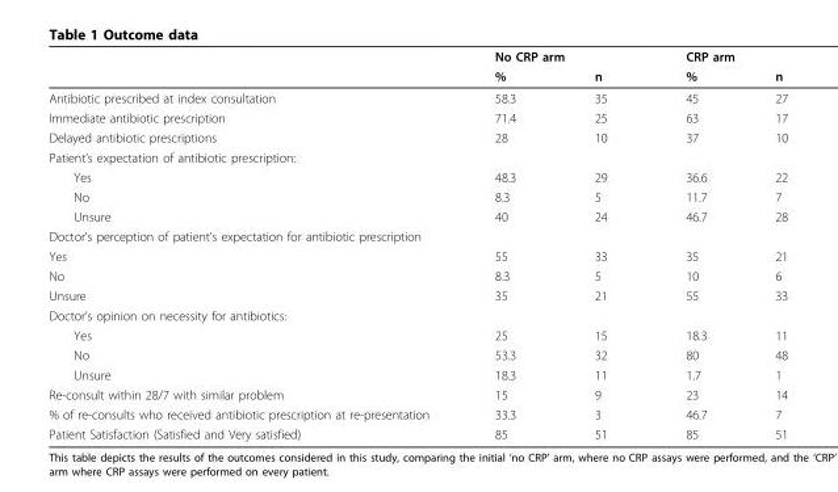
<table><thead><tr><td rowspan="2"></td><td colspan="2">No CRP arm</td><td colspan="2">CRP arm</td></tr><tr><td>%</td><td>n</td><td>%</td><td>n</td></tr></thead><tbody><tr><td>Antibiotic prescribed at index consultation</td><td>58.3</td><td>35</td><td>45</td><td>27</td></tr><tr><td>Immediate antibiotic prescription</td><td>71.4</td><td>25</td><td>63</td><td>17</td></tr><tr><td>Delayed antibiotic prescriptions</td><td>28</td><td>10</td><td>37</td><td>10</td></tr><tr><td colspan="5">Patient’s expectation of antibiotic prescription:</td></tr><tr><td>Yes</td><td>48.3</td><td>29</td><td>36.6</td><td>22</td></tr><tr><td>No</td><td>8.3</td><td>5</td><td>11.7</td><td>7</td></tr><tr><td>Unsure</td><td>40</td><td>24</td><td>46.7</td><td>28</td></tr><tr><td colspan="5">Doctor’s perception of patient’s expectation for antibiotic prescription</td></tr><tr><td>Yes</td><td>55</td><td>33</td><td>35</td><td>21</td></tr><tr><td>No</td><td>8.3</td><td>5</td><td>10</td><td>6</td></tr><tr><td>Unsure</td><td>35</td><td>21</td><td>55</td><td>33</td></tr><tr><td colspan="5">Doctor’s opinion on necessity for antibiotics:</td></tr><tr><td>Yes</td><td>25</td><td>15</td><td>18.3</td><td>11</td></tr><tr><td>No</td><td>53.3</td><td>32</td><td>80</td><td>48</td></tr><tr><td>Unsure</td><td>18.3</td><td>11</td><td>1.7</td><td>1</td></tr><tr><td>Re-consult within 28/7 with similar problem</td><td>15</td><td>9</td><td>23</td><td>14</td></tr><tr><td>% of re-consults who received antibiotic prescription at re-presentation</td><td>33.3</td><td>3</td><td>46.7</td><td>7</td></tr><tr><td>Patient Satisfaction (Satisfied and Very satisfied)</td><td>85</td><td>51</td><td>85</td><td>51</td></tr></tbody></table>